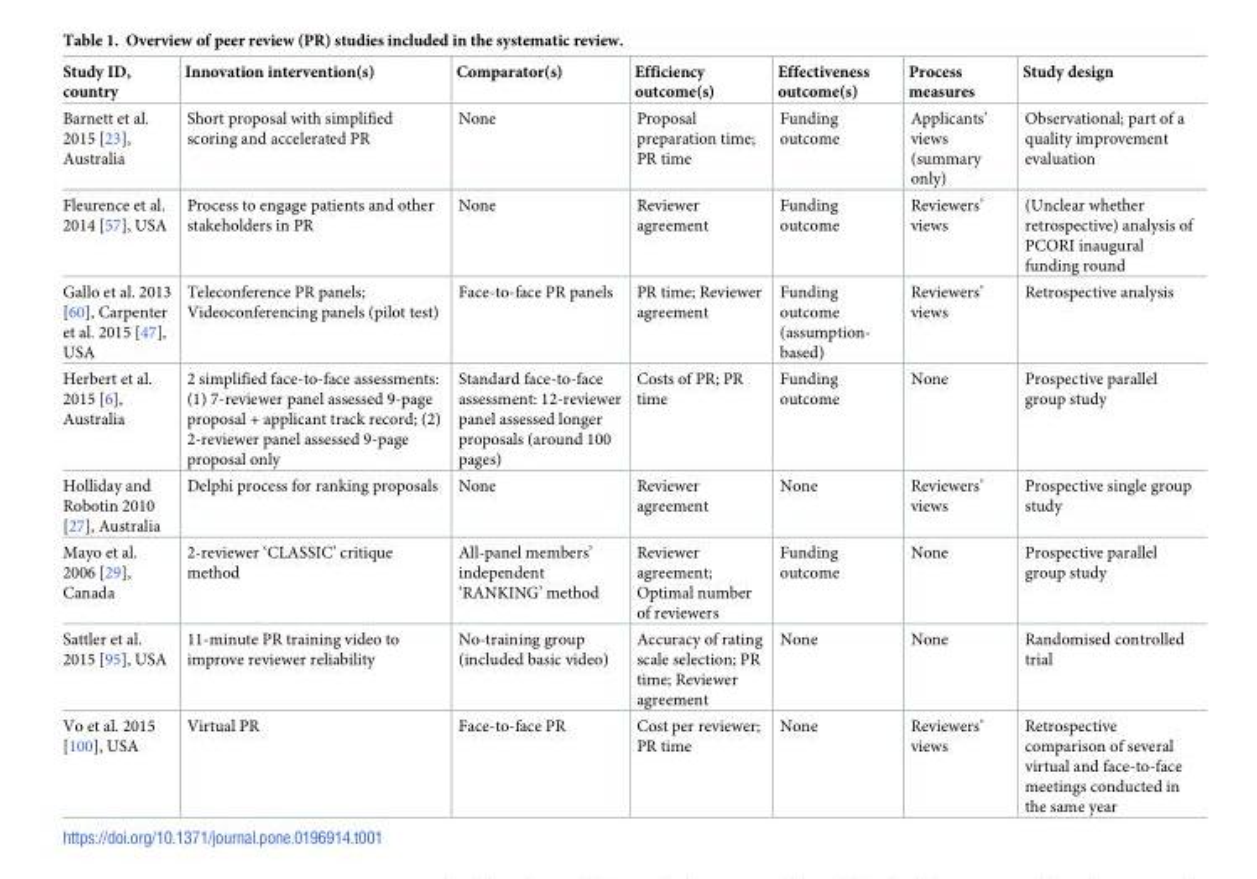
<table><thead><tr><td>Study ID, country</td><td>Innovation intervention(s)</td><td>Comparator(s)</td><td>Efficiency outcome(s)</td><td>Effectiveness outcome(s)</td><td>Process measures</td><td>Study design</td></tr></thead><tbody><tr><td>Barnett et al. 2015 [23], Australia</td><td>Short proposal with simplified scoring and accelerated PR</td><td>None</td><td>Proposal preparation time; PR time</td><td>Funding outcome</td><td>Applicants’ views (summary only)</td><td>Observational; part of a quality improvement evaluation</td></tr><tr><td>Fleurence et al. 2014 [57], USA</td><td>Process to engage patients and other stakeholders in PR</td><td>None</td><td>Reviewer agreement</td><td>Funding outcome</td><td>Reviewers’ views</td><td>(Unclear whether retrospective) analysis of PCORI inaugural funding round</td></tr><tr><td>Gallo et al. 2013 [60], Carpenter et al. 2015 [47], USA</td><td>Teleconference PR panels; Videoconferencing panels (pilot test)</td><td>Face-to-face PR panels</td><td>PR time; Reviewer agreement</td><td>Funding outcome (assumption- based)</td><td>Reviewers’ views</td><td>Retrospective analysis</td></tr><tr><td>Herbert et al. 2015 [6], Australia</td><td>2 simplified face-to-face assessments: (1) 7-reviewer panel assessed 9-page proposal + applicant track record; (2) 2-reviewer panel assessed 9-page proposal only</td><td>Standard face-to-face assessment: 12-reviewer panel assessed longer proposals (around 100 pages)</td><td>Costs of PR; PR time</td><td>Funding outcome</td><td>None</td><td>Prospective parallel group study</td></tr><tr><td>Holliday and Robotin 2010 [27], Australia</td><td>Delphi process for ranking proposals</td><td>None</td><td>Reviewer agreement</td><td>None</td><td>Reviewers’ views</td><td>Prospective single group study</td></tr><tr><td>Mayo et al. 2006 [29], Canada</td><td>2-reviewer ‘CLASSIC’ critique method</td><td>All-panel members’ independent ‘RANKING’ method</td><td>Reviewer agreement; Optimal number of reviewers</td><td>Funding outcome</td><td>None</td><td>Prospective parallel group study</td></tr><tr><td>Sattler et al. 2015 [95], USA</td><td>11-minute PR training video to improve reviewer reliability</td><td>No-training group (included basic video)</td><td>Accuracy of rating scale selection; PR time; Reviewer agreement</td><td>None</td><td>None</td><td>Randomised controlled trial</td></tr><tr><td>Vo et al. 2015 [100], USA</td><td>Virtual PR</td><td>Face-to-face PR</td><td>Cost per reviewer; PR time</td><td>None</td><td>Reviewers’ views</td><td>Retrospective comparison of several virtual and face-to-face meetings conducted in the same year</td></tr></tbody></table>